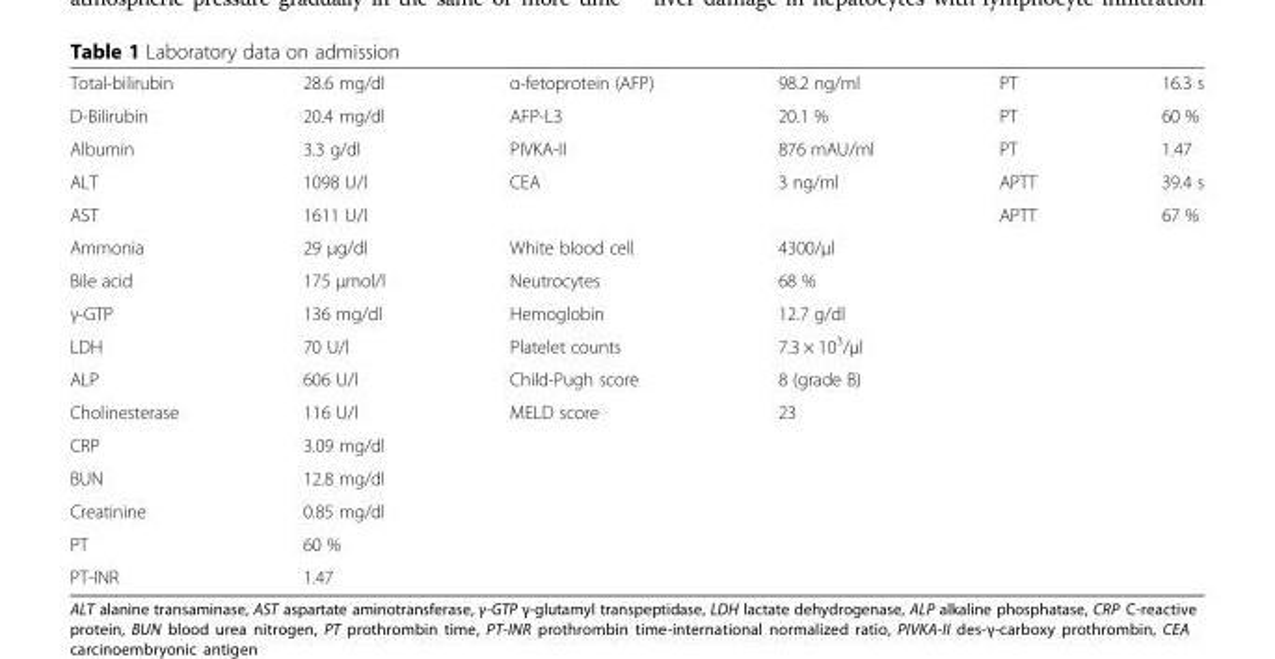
<table><tbody><tr><td>Total-bilirubin</td><td>28.6 mg/dl</td><td>α-fetoprotein (AFP)</td><td>98.2 ng/ml</td><td>PT</td><td>16.3 s</td></tr><tr><td>D-Bilirubin</td><td>20.4 mg/dl</td><td>AFP-L3</td><td>20.1 %</td><td>PT</td><td>60 %</td></tr><tr><td>Albumin</td><td>3.3 g/dl</td><td>PIVKA-II</td><td>876 mAU/ml</td><td>PT</td><td>1.47</td></tr><tr><td>ALT</td><td>1098 U/l</td><td>CEA</td><td>3 ng/ml</td><td>APTT</td><td>39.4 s</td></tr><tr><td>AST</td><td>1611 U/l</td><td></td><td></td><td>APTT</td><td>67 %</td></tr><tr><td>Ammonia</td><td>29 μg/dl</td><td>White blood cell</td><td>4300/μl</td><td></td><td></td></tr><tr><td>Bile acid</td><td>175 μmol/l</td><td>Neutrocytes</td><td>68 %</td><td></td><td></td></tr><tr><td>γ-GTP</td><td>136 mg/dl</td><td>Hemoglobin</td><td>12.7 g/dl</td><td></td><td></td></tr><tr><td>LDH</td><td>70 U/l</td><td>Platelet counts</td><td>7.3 × 10<sup>3</sup>/μl</td><td></td><td></td></tr><tr><td>ALP</td><td>606 U/l</td><td>Child-Pugh score</td><td>8 (grade B)</td><td></td><td></td></tr><tr><td>Cholinesterase</td><td>116 U/l</td><td>MELD score</td><td>23</td><td></td><td></td></tr><tr><td>CRP</td><td>3.09 mg/dl</td><td></td><td></td><td></td><td></td></tr><tr><td>BUN</td><td>12.8 mg/dl</td><td></td><td></td><td></td><td></td></tr><tr><td>Creatinine</td><td>0.85 mg/dl</td><td></td><td></td><td></td><td></td></tr><tr><td>PT</td><td>60 %</td><td></td><td></td><td></td><td></td></tr><tr><td>PT-INR</td><td>1.47</td><td></td><td></td><td></td><td></td></tr></tbody></table>